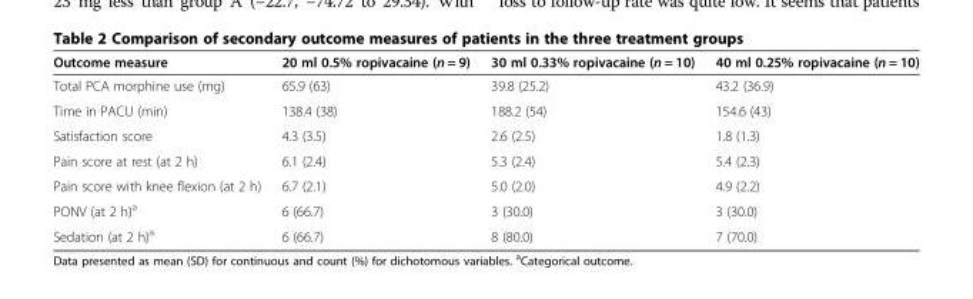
<table><thead><tr><td>Outcome measure</td><td>20 ml 0.5% ropivacaine (n = 9)</td><td>30 ml 0.33% ropivacaine (n = 10)</td><td>40 ml 0.25% ropivacaine (n = 10)</td></tr></thead><tbody><tr><td>Total PCA morphine use (mg)</td><td>65.9 (63)</td><td>39.8 (25.2)</td><td>43.2 (36.9)</td></tr><tr><td>Time in PACU (min)</td><td>138.4 (38)</td><td>188.2 (54)</td><td>154.6 (43)</td></tr><tr><td>Satisfaction score</td><td>4.3 (3.5)</td><td>2.6 (2.5)</td><td>1.8 (1.3)</td></tr><tr><td>Pain score at rest (at 2 h)</td><td>6.1 (2.4)</td><td>5.3 (2.4)</td><td>5.4 (2.3)</td></tr><tr><td>Pain score with knee flexion (at 2 h)</td><td>6.7 (2.1)</td><td>5.0 (2.0)</td><td>4.9 (2.2)</td></tr><tr><td>PONV (at 2 h)<sup>a</sup></td><td>6 (66.7)</td><td>3 (30.0)</td><td>3 (30.0)</td></tr><tr><td>Sedation (at 2 h)<sup>a</sup></td><td>6 (66.7)</td><td>8 (80.0)</td><td>7 (70.0)</td></tr></tbody></table>